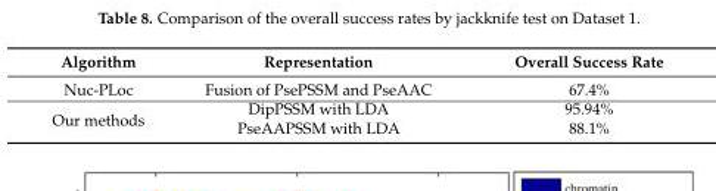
<table><thead><tr><td>Algorithm</td><td>Representation</td><td>Overall Success Rate</td></tr></thead><tbody><tr><td>Nuc-PLoc</td><td>Fusion of PsePSSM and PseAAC</td><td>67.4%</td></tr><tr><td rowspan="2">Our methods</td><td>DipPSSM with LDA</td><td>95.94%</td></tr><tr><td>PseAAPSSM with LDA</td><td>88.1%</td></tr></tbody></table>